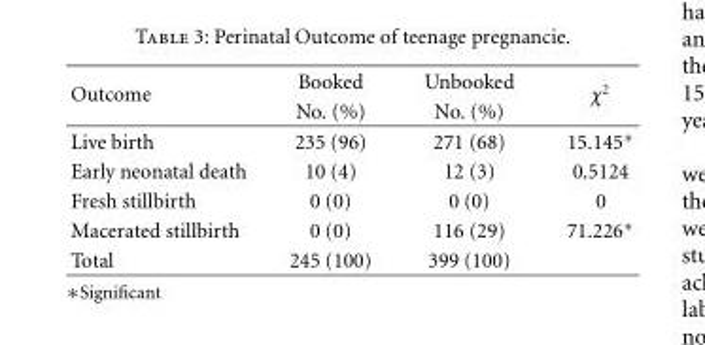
<table><thead><tr><td rowspan="2">Outcome</td><td rowspan="2">Booked No. (%)</td><td rowspan="2">Unbooked No. (%)</td><td rowspan="2">χ<sup>2</sup></td></tr><tr></tr></thead><tbody><tr><td>Live birth</td><td>235 (96)</td><td>271 (68)</td><td>15.145∗</td></tr><tr><td>Early neonatal death</td><td>10 (4)</td><td>12 (3)</td><td>0.5124</td></tr><tr><td>Fresh stillbirth</td><td>0 (0)</td><td>0 (0)</td><td>0</td></tr><tr><td>Macerated stillbirth</td><td>0 (0)</td><td>116 (29)</td><td>71.226∗</td></tr><tr><td>Total</td><td>245 (100)</td><td>399 (100)</td><td></td></tr></tbody></table>